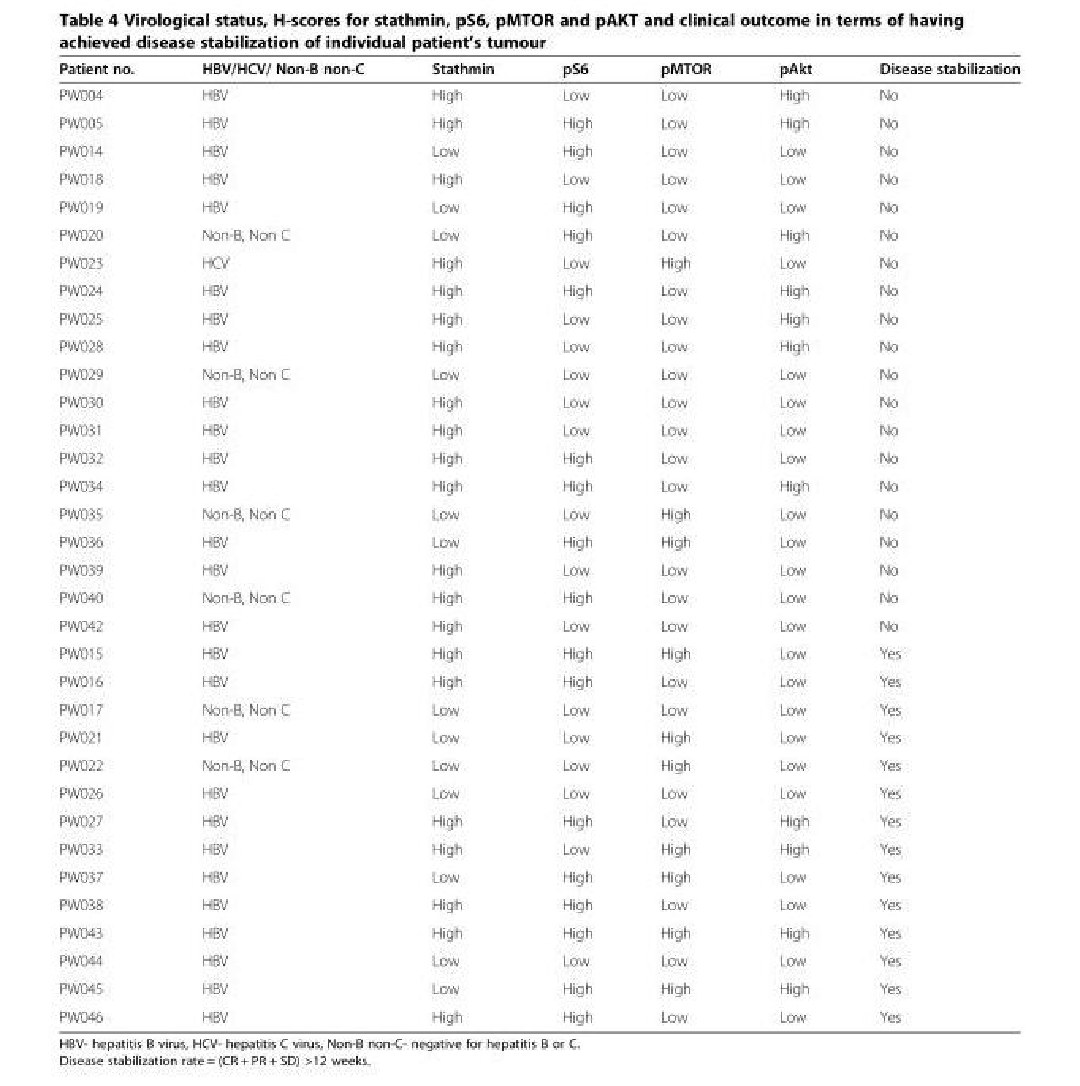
<table><thead><tr><td>Patient no.</td><td>HBV/HCV/ Non-B non-C</td><td>Stathmin</td><td>pS6</td><td>pMTOR</td><td>pAkt</td><td>Disease stabilization</td></tr></thead><tbody><tr><td>PW004</td><td>HBV</td><td>High</td><td>Low</td><td>Low</td><td>High</td><td>No</td></tr><tr><td>PW005</td><td>HBV</td><td>High</td><td>High</td><td>Low</td><td>High</td><td>No</td></tr><tr><td>PW014</td><td>HBV</td><td>Low</td><td>High</td><td>Low</td><td>Low</td><td>No</td></tr><tr><td>PW018</td><td>HBV</td><td>High</td><td>Low</td><td>Low</td><td>Low</td><td>No</td></tr><tr><td>PW019</td><td>HBV</td><td>Low</td><td>High</td><td>Low</td><td>Low</td><td>No</td></tr><tr><td>PW020</td><td>Non-B, Non C</td><td>Low</td><td>High</td><td>Low</td><td>High</td><td>No</td></tr><tr><td>PW023</td><td>HCV</td><td>High</td><td>Low</td><td>High</td><td>Low</td><td>No</td></tr><tr><td>PW024</td><td>HBV</td><td>High</td><td>High</td><td>Low</td><td>High</td><td>No</td></tr><tr><td>PW025</td><td>HBV</td><td>High</td><td>Low</td><td>Low</td><td>High</td><td>No</td></tr><tr><td>PW028</td><td>HBV</td><td>High</td><td>Low</td><td>Low</td><td>High</td><td>No</td></tr><tr><td>PW029</td><td>Non-B, Non C</td><td>Low</td><td>Low</td><td>Low</td><td>Low</td><td>No</td></tr><tr><td>PW030</td><td>HBV</td><td>High</td><td>Low</td><td>Low</td><td>Low</td><td>No</td></tr><tr><td>PW031</td><td>HBV</td><td>High</td><td>Low</td><td>Low</td><td>Low</td><td>No</td></tr><tr><td>PW032</td><td>HBV</td><td>High</td><td>High</td><td>Low</td><td>Low</td><td>No</td></tr><tr><td>PW034</td><td>HBV</td><td>High</td><td>High</td><td>Low</td><td>High</td><td>No</td></tr><tr><td>PW035</td><td>Non-B, Non C</td><td>Low</td><td>Low</td><td>High</td><td>Low</td><td>No</td></tr><tr><td>PW036</td><td>HBV</td><td>Low</td><td>High</td><td>High</td><td>Low</td><td>No</td></tr><tr><td>PW039</td><td>HBV</td><td>High</td><td>Low</td><td>Low</td><td>Low</td><td>No</td></tr><tr><td>PW040</td><td>Non-B, Non C</td><td>High</td><td>High</td><td>Low</td><td>Low</td><td>No</td></tr><tr><td>PW042</td><td>HBV</td><td>High</td><td>Low</td><td>Low</td><td>Low</td><td>No</td></tr><tr><td>PW015</td><td>HBV</td><td>High</td><td>High</td><td>High</td><td>Low</td><td>Yes</td></tr><tr><td>PW016</td><td>HBV</td><td>High</td><td>High</td><td>Low</td><td>Low</td><td>Yes</td></tr><tr><td>PW017</td><td>Non-B, Non C</td><td>Low</td><td>Low</td><td>Low</td><td>Low</td><td>Yes</td></tr><tr><td>PW021</td><td>HBV</td><td>Low</td><td>Low</td><td>High</td><td>Low</td><td>Yes</td></tr><tr><td>PW022</td><td>Non-B, Non C</td><td>Low</td><td>Low</td><td>High</td><td>Low</td><td>Yes</td></tr><tr><td>PW026</td><td>HBV</td><td>Low</td><td>Low</td><td>Low</td><td>Low</td><td>Yes</td></tr><tr><td>PW027</td><td>HBV</td><td>High</td><td>High</td><td>Low</td><td>High</td><td>Yes</td></tr><tr><td>PW033</td><td>HBV</td><td>High</td><td>Low</td><td>High</td><td>High</td><td>Yes</td></tr><tr><td>PW037</td><td>HBV</td><td>Low</td><td>High</td><td>High</td><td>Low</td><td>Yes</td></tr><tr><td>PW038</td><td>HBV</td><td>High</td><td>High</td><td>Low</td><td>Low</td><td>Yes</td></tr><tr><td>PW043</td><td>HBV</td><td>High</td><td>High</td><td>High</td><td>High</td><td>Yes</td></tr><tr><td>PW044</td><td>HBV</td><td>Low</td><td>Low</td><td>Low</td><td>Low</td><td>Yes</td></tr><tr><td>PW045</td><td>HBV</td><td>Low</td><td>High</td><td>High</td><td>High</td><td>Yes</td></tr><tr><td>PW046</td><td>HBV</td><td>High</td><td>High</td><td>Low</td><td>Low</td><td>Yes</td></tr></tbody></table>